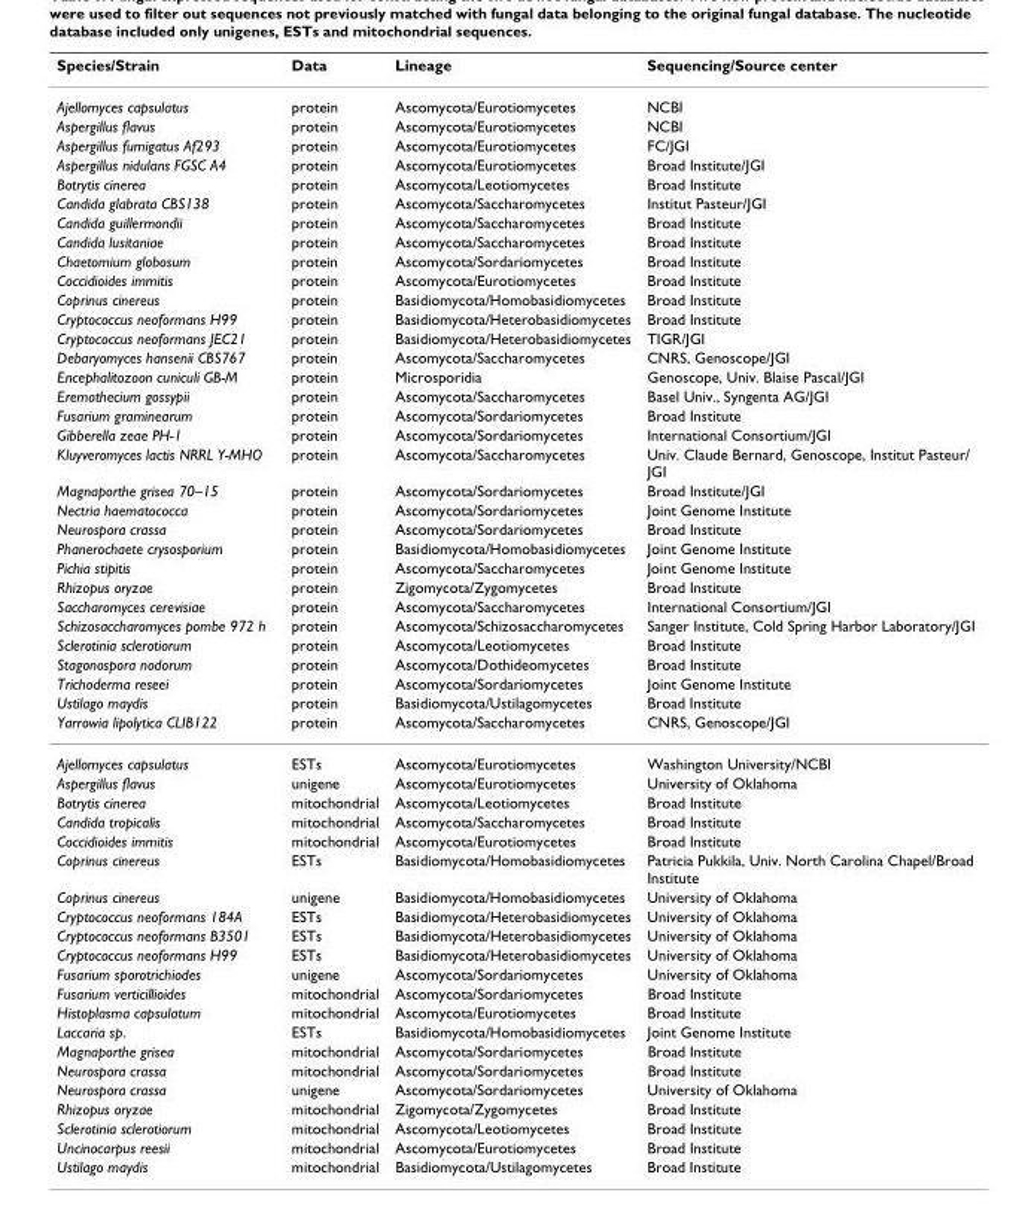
<table><thead><tr><td>Species/Strain</td><td>Data</td><td>Lineage</td><td>Sequencing/Source center</td></tr></thead><tbody><tr><td>Ajellomyces capsulatus</td><td>protein</td><td>Ascomycota/Eurotiomycetes</td><td>NCBI</td></tr><tr><td>Aspergillus flavus</td><td>protein</td><td>Ascomycota/Eurotiomycetes</td><td>NCBI</td></tr><tr><td>Aspergillus fumigatus Af293</td><td>protein</td><td>Ascomycota/Eurotiomycetes</td><td>FC/JGI</td></tr><tr><td>Aspergillus nidulans FGSC A4</td><td>protein</td><td>Ascomycota/Eurotiomycetes</td><td>Broad Institute/JGI</td></tr><tr><td>Botrytis cinerea</td><td>protein</td><td>Ascomycota/Leotiomycetes</td><td>Broad Institute</td></tr><tr><td>Candida glabrata CBS138</td><td>protein</td><td>Ascomycota/Saccharomycetes</td><td>Institut Pasteur/JGI</td></tr><tr><td>Candida guillermondii</td><td>protein</td><td>Ascomycota/Saccharomycetes</td><td>Broad Institute</td></tr><tr><td>Candida lusitaniae</td><td>protein</td><td>Ascomycota/Saccharomycetes</td><td>Broad Institute</td></tr><tr><td>Chaetomium globosum</td><td>protein</td><td>Ascomycota/Sordariomycetes</td><td>Broad Institute</td></tr><tr><td>Coccidioides immitis</td><td>protein</td><td>Ascomycota/Eurotiomycetes</td><td>Broad Institute</td></tr><tr><td>Coprinus cinereus</td><td>protein</td><td>Basidiomycota/Homobasidiomycetes</td><td>Broad Institute</td></tr><tr><td>Cryptococcus neoformans H99</td><td>protein</td><td>Basidiomycota/Heterobasidiomycetes</td><td>Broad Institute</td></tr><tr><td>Cryptococcus neoformans JEC21</td><td>protein</td><td>Basidiomycota/Heterobasidiomycetes</td><td>TIGR/JGI</td></tr><tr><td>Debaryomyces hansenii CBS767</td><td>protein</td><td>Ascomycota/Saccharomycetes</td><td>CNRS, Genoscope/JGI</td></tr><tr><td>Encephalitozoon cuniculi GB-M</td><td>protein</td><td>Microsporidia</td><td>Genoscope, Univ. Blaise Pascal/JGI</td></tr><tr><td>Eremothecium gossypii</td><td>protein</td><td>Ascomycota/Saccharomycetes</td><td>Basel Univ., Syngenta AG/JGI</td></tr><tr><td>Fusarium graminearum</td><td>protein</td><td>Ascomycota/Sordariomycetes</td><td>Broad Institute</td></tr><tr><td>Gibberella zeae PH-1</td><td>protein</td><td>Ascomycota/Sordariomycetes</td><td>International Consortium/JGI</td></tr><tr><td>Kluyveromyces lactis NRRL Y-MHO</td><td>protein</td><td>Ascomycota/Saccharomycetes</td><td>Univ. Claude Bernard, Genoscope, Institut Pasteur/ JGI</td></tr><tr><td>Magnaporthe grisea 70–15</td><td>protein</td><td>Ascomycota/Sordariomycetes</td><td>Broad Institute/JGI</td></tr><tr><td>Nectria haematococca</td><td>protein</td><td>Ascomycota/Sordariomycetes</td><td>Joint Genome Institute</td></tr><tr><td>Neurospora crassa</td><td>protein</td><td>Ascomycota/Sordariomycetes</td><td>Broad Institute</td></tr><tr><td>Phanerochaete crysosporium</td><td>protein</td><td>Basidiomycota/Homobasidiomycetes</td><td>Joint Genome Institute</td></tr><tr><td>Pichia stipitis</td><td>protein</td><td>Ascomycota/Saccharomycetes</td><td>Joint Genome Institute</td></tr><tr><td>Rhizopus oryzae</td><td>protein</td><td>Zigomycota/Zygomycetes</td><td>Broad Institute</td></tr><tr><td>Saccharomyces cerevisiae</td><td>protein</td><td>Ascomycota/Saccharomycetes</td><td>International Consortium/JGI</td></tr><tr><td>Schizosaccharomyces pombe 972 h</td><td>protein</td><td>Ascomycota/Schizosaccharomycetes</td><td>Sanger Institute, Cold Spring Harbor Laboratory/JGI</td></tr><tr><td>Sclerotinia sclerotiorum</td><td>protein</td><td>Ascomycota/Leotiomycetes</td><td>Broad Institute</td></tr><tr><td>Stagonospora nodorum</td><td>protein</td><td>Ascomycota/Dothideomycetes</td><td>Broad Institute</td></tr><tr><td>Trichoderma reseei</td><td>protein</td><td>Ascomycota/Sordariomycetes</td><td>Joint Genome Institute</td></tr><tr><td>Ustilago maydis</td><td>protein</td><td>Basidiomycota/Ustilagomycetes</td><td>Broad Institute</td></tr><tr><td>Yarrowia lipolytica CLIB122</td><td>protein</td><td>Ascomycota/Saccharomycetes</td><td>CNRS, Genoscope/JGI</td></tr><tr><td>Ajellomyces capsulatus</td><td>ESTs</td><td>Ascomycota/Eurotiomycetes</td><td>Washington University/NCBI</td></tr><tr><td>Aspergillus flavus</td><td>unigene</td><td>Ascomycota/Eurotiomycetes</td><td>University of Oklahoma</td></tr><tr><td>Botrytis cinerea</td><td>mitochondrial</td><td>Ascomycota/Leotiomycetes</td><td>Broad Institute</td></tr><tr><td>Candida tropicalis</td><td>mitochondrial</td><td>Ascomycota/Saccharomycetes</td><td>Broad Institute</td></tr><tr><td>Coccidioides immitis</td><td>mitochondrial</td><td>Ascomycota/Eurotiomycetes</td><td>Broad Institute</td></tr><tr><td>Coprinus cinereus</td><td>ESTs</td><td>Basidiomycota/Homobasidiomycetes</td><td>Patricia Pukkila, Univ. North Carolina Chapel/Broad Institute</td></tr><tr><td>Coprinus cinereus</td><td>unigene</td><td>Basidiomycota/Homobasidiomycetes</td><td>University of Oklahoma</td></tr><tr><td>Cryptococcus neoformans 184A</td><td>ESTs</td><td>Basidiomycota/Heterobasidiomycetes</td><td>University of Oklahoma</td></tr><tr><td>Cryptococcus neoformans B3501</td><td>ESTs</td><td>Basidiomycota/Heterobasidiomycetes</td><td>University of Oklahoma</td></tr><tr><td>Cryptococcus neoformans H99</td><td>ESTs</td><td>Basidiomycota/Heterobasidiomycetes</td><td>University of Oklahoma</td></tr><tr><td>Fusarium sporotrichiodes</td><td>unigene</td><td>Ascomycota/Sordariomycetes</td><td>University of Oklahoma</td></tr><tr><td>Fusarium verticillioides</td><td>mitochondrial</td><td>Ascomycota/Sordariomycetes</td><td>Broad Institute</td></tr><tr><td>Histoplasma capsulatum</td><td>mitochondrial</td><td>Ascomycota/Eurotiomycetes</td><td>Broad Institute</td></tr><tr><td>Laccaria sp.</td><td>ESTs</td><td>Basidiomycota/Homobasidiomycetes</td><td>Joint Genome Institute</td></tr><tr><td>Magnaporthe grisea</td><td>mitochondrial</td><td>Ascomycota/Sordariomycetes</td><td>Broad Institute</td></tr><tr><td>Neurospora crassa</td><td>mitochondrial</td><td>Ascomycota/Sordariomycetes</td><td>Broad Institute</td></tr><tr><td>Neurospora crassa</td><td>unigene</td><td>Ascomycota/Sordariomycetes</td><td>University of Oklahoma</td></tr><tr><td>Rhizopus oryzae</td><td>mitochondrial</td><td>Zigomycota/Zygomycetes</td><td>Broad Institute</td></tr><tr><td>Sclerotinia sclerotiorum</td><td>mitochondrial</td><td>Ascomycota/Leotiomycetes</td><td>Broad Institute</td></tr><tr><td>Uncinocarpus reesii</td><td>mitochondrial</td><td>Ascomycota/Eurotiomycetes</td><td>Broad Institute</td></tr><tr><td>Ustilago maydis</td><td>mitochondrial</td><td>Basidiomycota/Ustilagomycetes</td><td>Broad Institute</td></tr></tbody></table>